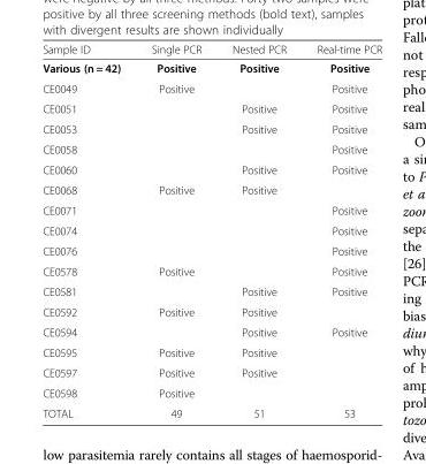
<table><thead><tr><td>Sample ID</td><td>Single PCR</td><td>Nested PCR</td><td>Real-time PCR</td></tr></thead><tbody><tr><td>Various (n = 42)</td><td>Positive</td><td>Positive</td><td>Positive</td></tr><tr><td>CE0049</td><td>Positive</td><td></td><td>Positive</td></tr><tr><td>CE0051</td><td></td><td>Positive</td><td>Positive</td></tr><tr><td>CE0053</td><td></td><td>Positive</td><td>Positive</td></tr><tr><td>CE0058</td><td></td><td></td><td>Positive</td></tr><tr><td>CE0060</td><td></td><td>Positive</td><td>Positive</td></tr><tr><td>CE0068</td><td>Positive</td><td>Positive</td><td></td></tr><tr><td>CE0071</td><td></td><td></td><td>Positive</td></tr><tr><td>CE0074</td><td></td><td></td><td>Positive</td></tr><tr><td>CE0076</td><td></td><td></td><td>Positive</td></tr><tr><td>CE0578</td><td>Positive</td><td></td><td>Positive</td></tr><tr><td>CE0581</td><td></td><td>Positive</td><td>Positive</td></tr><tr><td>CE0592</td><td>Positive</td><td>Positive</td><td></td></tr><tr><td>CE0594</td><td></td><td>Positive</td><td>Positive</td></tr><tr><td>CE0595</td><td>Positive</td><td>Positive</td><td></td></tr><tr><td>CE0597</td><td>Positive</td><td>Positive</td><td></td></tr><tr><td>CE0598</td><td>Positive</td><td></td><td></td></tr><tr><td>TOTAL</td><td>49</td><td>51</td><td>53</td></tr></tbody></table>